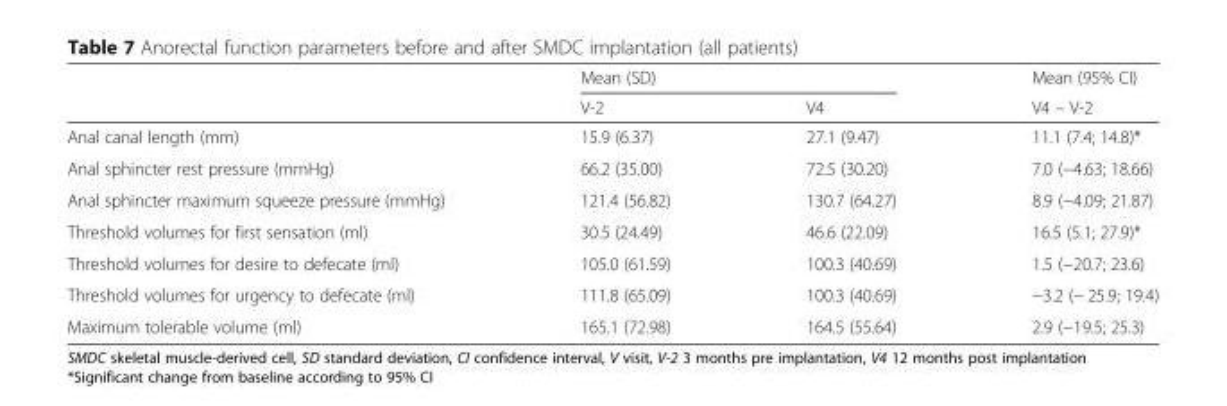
<table><thead><tr><td rowspan="2"></td><td colspan="2">Mean (SD)</td><td rowspan="2">Mean (95% CI) V4 – V-2</td></tr><tr><td>V-2</td><td>V4</td></tr></thead><tbody><tr><td>Anal canal length (mm)</td><td>15.9 (6.37)</td><td>27.1 (9.47)</td><td>11.1 (7.4; 14.8)*</td></tr><tr><td>Anal sphincter rest pressure (mmHg)</td><td>66.2 (35.00)</td><td>72.5 (30.20)</td><td>7.0 (−4.63; 18.66)</td></tr><tr><td>Anal sphincter maximum squeeze pressure (mmHg)</td><td>121.4 (56.82)</td><td>130.7 (64.27)</td><td>8.9 (−4.09; 21.87)</td></tr><tr><td>Threshold volumes for first sensation (ml)</td><td>30.5 (24.49)</td><td>46.6 (22.09)</td><td>16.5 (5.1; 27.9)*</td></tr><tr><td>Threshold volumes for desire to defecate (ml)</td><td>105.0 (61.59)</td><td>100.3 (40.69)</td><td>1.5 (−20.7; 23.6)</td></tr><tr><td>Threshold volumes for urgency to defecate (ml)</td><td>111.8 (65.09)</td><td>100.3 (40.69)</td><td>−3.2 (− 25.9; 19.4)</td></tr><tr><td>Maximum tolerable volume (ml)</td><td>165.1 (72.98)</td><td>164.5 (55.64)</td><td>2.9 (−19.5; 25.3)</td></tr></tbody></table>